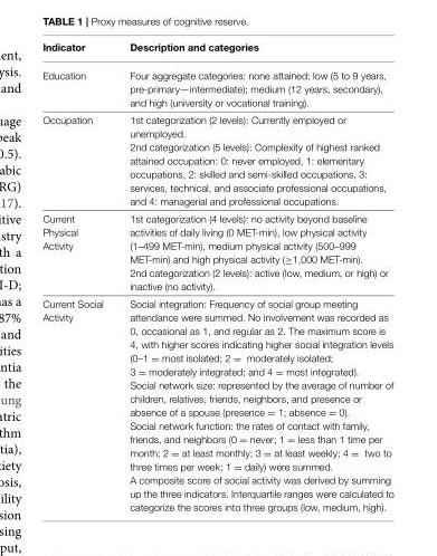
<table><thead><tr><td>Indicator</td><td>Description and categories</td></tr></thead><tbody><tr><td>Education</td><td>Four aggregate categories: none attained; low (5 to 9 years, pre-primary—intermediate); medium (12 years, secondary), and high (university or vocational training).</td></tr><tr><td>Occupation</td><td>1st categorization (2 levels): Currently employed or unemployed. 2nd categorization (5 levels): Complexity of highest ranked attained occupation: 0: never employed, 1: elementary occupations, 2: skilled and semi-skilled occupations, 3: services, technical, and associate professional occupations, and 4: managerial and professional occupations.</td></tr><tr><td>Current Physical Activity</td><td>1st categorization (4 levels): no activity beyond baseline activities of daily living (0 MET-min), low physical activity (1–499 MET-min), medium physical activity (500–999 MET-min) and high physical activity (≥1,000 MET-min). 2nd categorization (2 levels): active (low, medium, or high) or inactive (no activity).</td></tr><tr><td>Current Social Activity</td><td>Social integration: Frequency of social group meeting attendance were summed. No involvement was recorded as 0, occasional as 1, and regular as 2. The maximum score is 4, with higher scores indicating higher social integration levels (0–1 = most isolated; 2 = moderately isolated; 3 = moderately integrated; and 4 = most integrated). Social network size: represented by the average of number of children, relatives, friends, neighbors, and presence or absence of a spouse (presence = 1; absence = 0). Social network function: the rates of contact with family, friends, and neighbors (0 = never; 1 = less than 1 time per month; 2 = at least monthly; 3 = at least weekly; 4 = two to three times per week; 1 = daily) were summed. A composite score of social activity was derived by summing up the three indicators. Interquartile ranges were calculated to categorize the scores into three groups (low, medium, high).</td></tr></tbody></table>